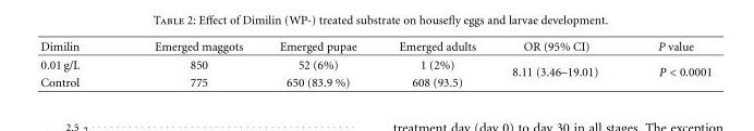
<table><thead><tr><td>Dimilin</td><td>Emerged maggots</td><td>Emerged pupae</td><td>Emerged adults</td><td>OR (95% CI)</td><td>P value</td></tr></thead><tbody><tr><td>0.01 g/L</td><td>850</td><td>52 (6%)</td><td>1 (2%)</td><td rowspan="2">8.11 (3.46–19.01)</td><td rowspan="2">P &lt; 0.0001</td></tr><tr><td>Control</td><td>775</td><td>650 (83.9 %)</td><td>608 (93.5)</td></tr></tbody></table>